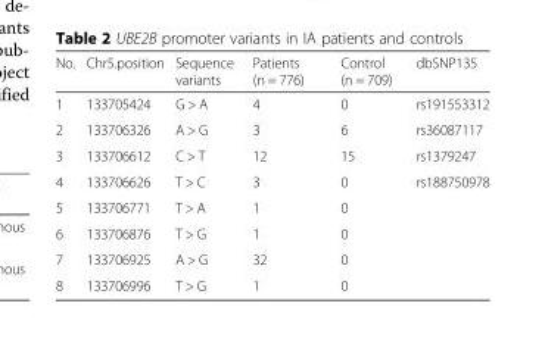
<table><thead><tr><td>No.</td><td>Chr5.position</td><td>Sequence variants</td><td>Patients (n = 776)</td><td>Control (n = 709)</td><td>dbSNP135</td></tr></thead><tbody><tr><td>1</td><td>133705424</td><td>G &gt; A</td><td>4</td><td>0</td><td>rs191553312</td></tr><tr><td>2</td><td>133706326</td><td>A &gt; G</td><td>3</td><td>6</td><td>rs36087117</td></tr><tr><td>3</td><td>133706612</td><td>C &gt; T</td><td>12</td><td>15</td><td>rs1379247</td></tr><tr><td>4</td><td>133706626</td><td>T &gt; C</td><td>3</td><td>0</td><td>rs188750978</td></tr><tr><td>5</td><td>133706771</td><td>T &gt; A</td><td>1</td><td>0</td><td></td></tr><tr><td>6</td><td>133706876</td><td>T &gt; G</td><td>1</td><td>0</td><td></td></tr><tr><td>7</td><td>133706925</td><td>A &gt; G</td><td>32</td><td>0</td><td></td></tr><tr><td>8</td><td>133706996</td><td>T &gt; G</td><td>1</td><td>0</td><td></td></tr></tbody></table>